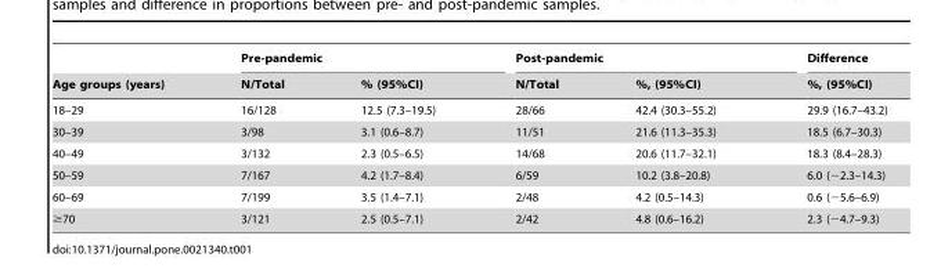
<table><thead><tr><td rowspan="2">Age groups (years)</td><td colspan="2">Pre-pandemic</td><td colspan="2">Post-pandemic</td><td rowspan="2">Difference %, (95%CI)</td></tr><tr><td>N/Total</td><td>% (95%CI)</td><td>N/Total</td><td>%, (95%CI)</td></tr></thead><tbody><tr><td>18–29</td><td>16/128</td><td>12.5 (7.3–19.5)</td><td>28/66</td><td>42.4 (30.3–55.2)</td><td>29.9 (16.7–43.2)</td></tr><tr><td>30–39</td><td>3/98</td><td>3.1 (0.6–8.7)</td><td>11/51</td><td>21.6 (11.3–35.3)</td><td>18.5 (6.7–30.3)</td></tr><tr><td>40–49</td><td>3/132</td><td>2.3 (0.5–6.5)</td><td>14/68</td><td>20.6 (11.7–32.1)</td><td>18.3 (8.4–28.3)</td></tr><tr><td>50–59</td><td>7/167</td><td>4.2 (1.7–8.4)</td><td>6/59</td><td>10.2 (3.8–20.8)</td><td>6.0 (−2.3–14.3)</td></tr><tr><td>60–69</td><td>7/199</td><td>3.5 (1.4–7.1)</td><td>2/48</td><td>4.2 (0.5–14.3)</td><td>0.6 (−5.6–6.9)</td></tr><tr><td>≥70</td><td>3/121</td><td>2.5 (0.5–7.1)</td><td>2/42</td><td>4.8 (0.6–16.2)</td><td>2.3 (−4.7–9.3)</td></tr></tbody></table>